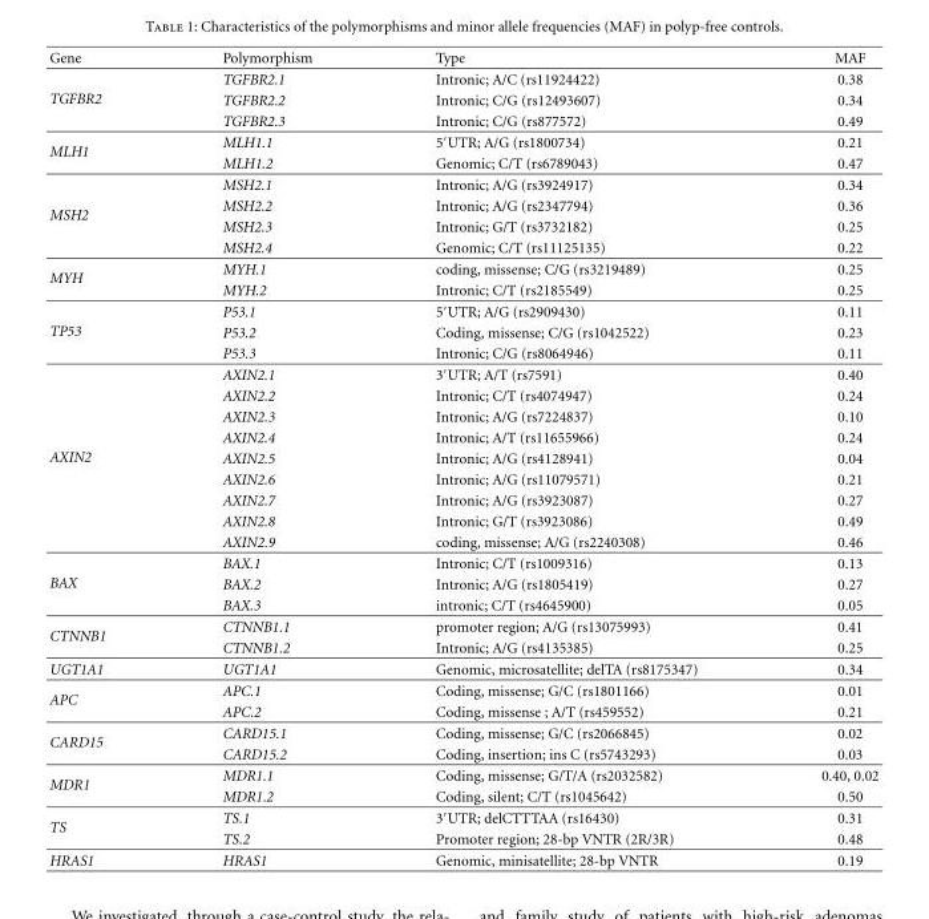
<table><thead><tr><td>Gene</td><td>Polymorphism</td><td>Type</td><td>MAF</td></tr></thead><tbody><tr><td rowspan="3">TGFBR2</td><td>TGFBR2.1</td><td>Intronic; A/C (rs11924422)</td><td>0.38</td></tr><tr><td>TGFBR2.2</td><td>Intronic; C/G (rs12493607)</td><td>0.34</td></tr><tr><td>TGFBR2.3</td><td>Intronic; C/G (rs877572)</td><td>0.49</td></tr><tr><td rowspan="2">MLH1</td><td>MLH1.1</td><td>5′UTR; A/G (rs1800734)</td><td>0.21</td></tr><tr><td>MLH1.2</td><td>Genomic; C/T (rs6789043)</td><td>0.47</td></tr><tr><td rowspan="4">MSH2</td><td>MSH2.1</td><td>Intronic; A/G (rs3924917)</td><td>0.34</td></tr><tr><td>MSH2.2</td><td>Intronic; A/G (rs2347794)</td><td>0.36</td></tr><tr><td>MSH2.3</td><td>Intronic; G/T (rs3732182)</td><td>0.25</td></tr><tr><td>MSH2.4</td><td>Genomic; C/T (rs11125135)</td><td>0.22</td></tr><tr><td rowspan="2">MYH</td><td>MYH.1</td><td>coding, missense; C/G (rs3219489)</td><td>0.25</td></tr><tr><td>MYH.2</td><td>Intronic; C/T (rs2185549)</td><td>0.25</td></tr><tr><td rowspan="3">TP53</td><td>P53.1</td><td>5′UTR; A/G (rs2909430)</td><td>0.11</td></tr><tr><td>P53.2</td><td>Coding, missense; C/G (rs1042522)</td><td>0.23</td></tr><tr><td>P53.3</td><td>Intronic; C/G (rs8064946)</td><td>0.11</td></tr><tr><td rowspan="9">AXIN2</td><td>AXIN2.1</td><td>3′UTR; A/T (rs7591)</td><td>0.40</td></tr><tr><td>AXIN2.2</td><td>Intronic; C/T (rs4074947)</td><td>0.24</td></tr><tr><td>AXIN2.3</td><td>Intronic; A/G (rs7224837)</td><td>0.10</td></tr><tr><td>AXIN2.4</td><td>Intronic; A/T (rs11655966)</td><td>0.24</td></tr><tr><td>AXIN2.5</td><td>Intronic; A/G (rs4128941)</td><td>0.04</td></tr><tr><td>AXIN2.6</td><td>Intronic; A/G (rs11079571)</td><td>0.21</td></tr><tr><td>AXIN2.7</td><td>Intronic; A/G (rs3923087)</td><td>0.27</td></tr><tr><td>AXIN2.8</td><td>Intronic; G/T (rs3923086)</td><td>0.49</td></tr><tr><td>AXIN2.9</td><td>coding, missense; A/G (rs2240308)</td><td>0.46</td></tr><tr><td rowspan="3">BAX</td><td>BAX.1</td><td>Intronic; C/T (rs1009316)</td><td>0.13</td></tr><tr><td>BAX.2</td><td>Intronic; A/G (rs1805419)</td><td>0.27</td></tr><tr><td>BAX.3</td><td>intronic; C/T (rs4645900)</td><td>0.05</td></tr><tr><td rowspan="2">CTNNB1</td><td>CTNNB1.1</td><td>promoter region; A/G (rs13075993)</td><td>0.41</td></tr><tr><td>CTNNB1.2</td><td>Intronic; A/G (rs4135385)</td><td>0.25</td></tr><tr><td>UGT1A1</td><td>UGT1A1</td><td>Genomic, microsatellite; delTA (rs8175347)</td><td>0.34</td></tr><tr><td rowspan="2">APC</td><td>APC.1</td><td>Coding, missense; G/C (rs1801166)</td><td>0.01</td></tr><tr><td>APC.2</td><td>Coding, missense ; A/T (rs459552)</td><td>0.21</td></tr><tr><td rowspan="2">CARD15</td><td>CARD15.1</td><td>Coding, missense; G/C (rs2066845)</td><td>0.02</td></tr><tr><td>CARD15.2</td><td>Coding, insertion; ins C (rs5743293)</td><td>0.03</td></tr><tr><td rowspan="2">MDR1</td><td>MDR1.1</td><td>Coding, missense; G/T/A (rs2032582)</td><td>0.40, 0.02</td></tr><tr><td>MDR1.2</td><td>Coding, silent; C/T (rs1045642)</td><td>0.50</td></tr><tr><td rowspan="2">TS</td><td>TS.1</td><td>3′UTR; delCTTTAA (rs16430)</td><td>0.31</td></tr><tr><td>TS.2</td><td>Promoter region; 28-bp VNTR (2R/3R)</td><td>0.48</td></tr><tr><td>HRAS1</td><td>HRAS1</td><td>Genomic, minisatellite; 28-bp VNTR</td><td>0.19</td></tr></tbody></table>